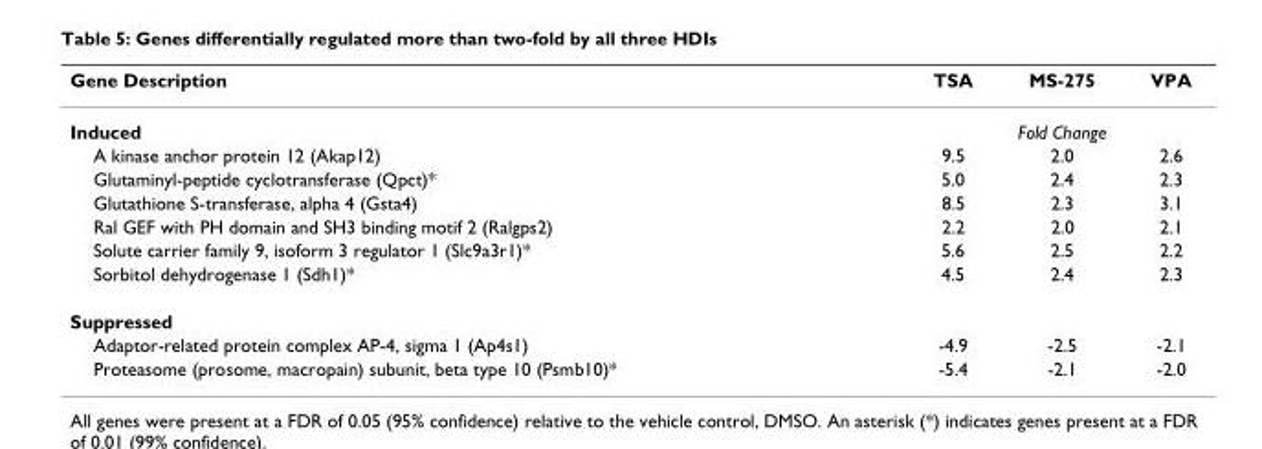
<table><thead><tr><td>Gene Description</td><td>TSA</td><td>MS-275</td><td>VPA</td></tr></thead><tbody><tr><td>Induced</td><td colspan="3">Fold Change</td></tr><tr><td>A kinase anchor protein 12 (Akap12)</td><td>9.5</td><td>2.0</td><td>2.6</td></tr><tr><td>Glutaminyl-peptide cyclotransferase (Qpct)*</td><td>5.0</td><td>2.4</td><td>2.3</td></tr><tr><td>Glutathione S-transferase, alpha 4 (Gsta4)</td><td>8.5</td><td>2.3</td><td>3.1</td></tr><tr><td>Ral GEF with PH domain and SH3 binding motif 2 (Ralgps2)</td><td>2.2</td><td>2.0</td><td>2.1</td></tr><tr><td>Solute carrier family 9, isoform 3 regulator 1 (Slc9a3r1)*</td><td>5.6</td><td>2.5</td><td>2.2</td></tr><tr><td>Sorbitol dehydrogenase 1 (Sdh1)*</td><td>4.5</td><td>2.4</td><td>2.3</td></tr><tr><td colspan="4">Suppressed</td></tr><tr><td>Adaptor-related protein complex AP-4, sigma 1 (Ap4s1)</td><td>-4.9</td><td>-2.5</td><td>-2.1</td></tr><tr><td>Proteasome (prosome, macropain) subunit, beta type 10 (Psmb10)*</td><td>-5.4</td><td>-2.1</td><td>-2.0</td></tr></tbody></table>